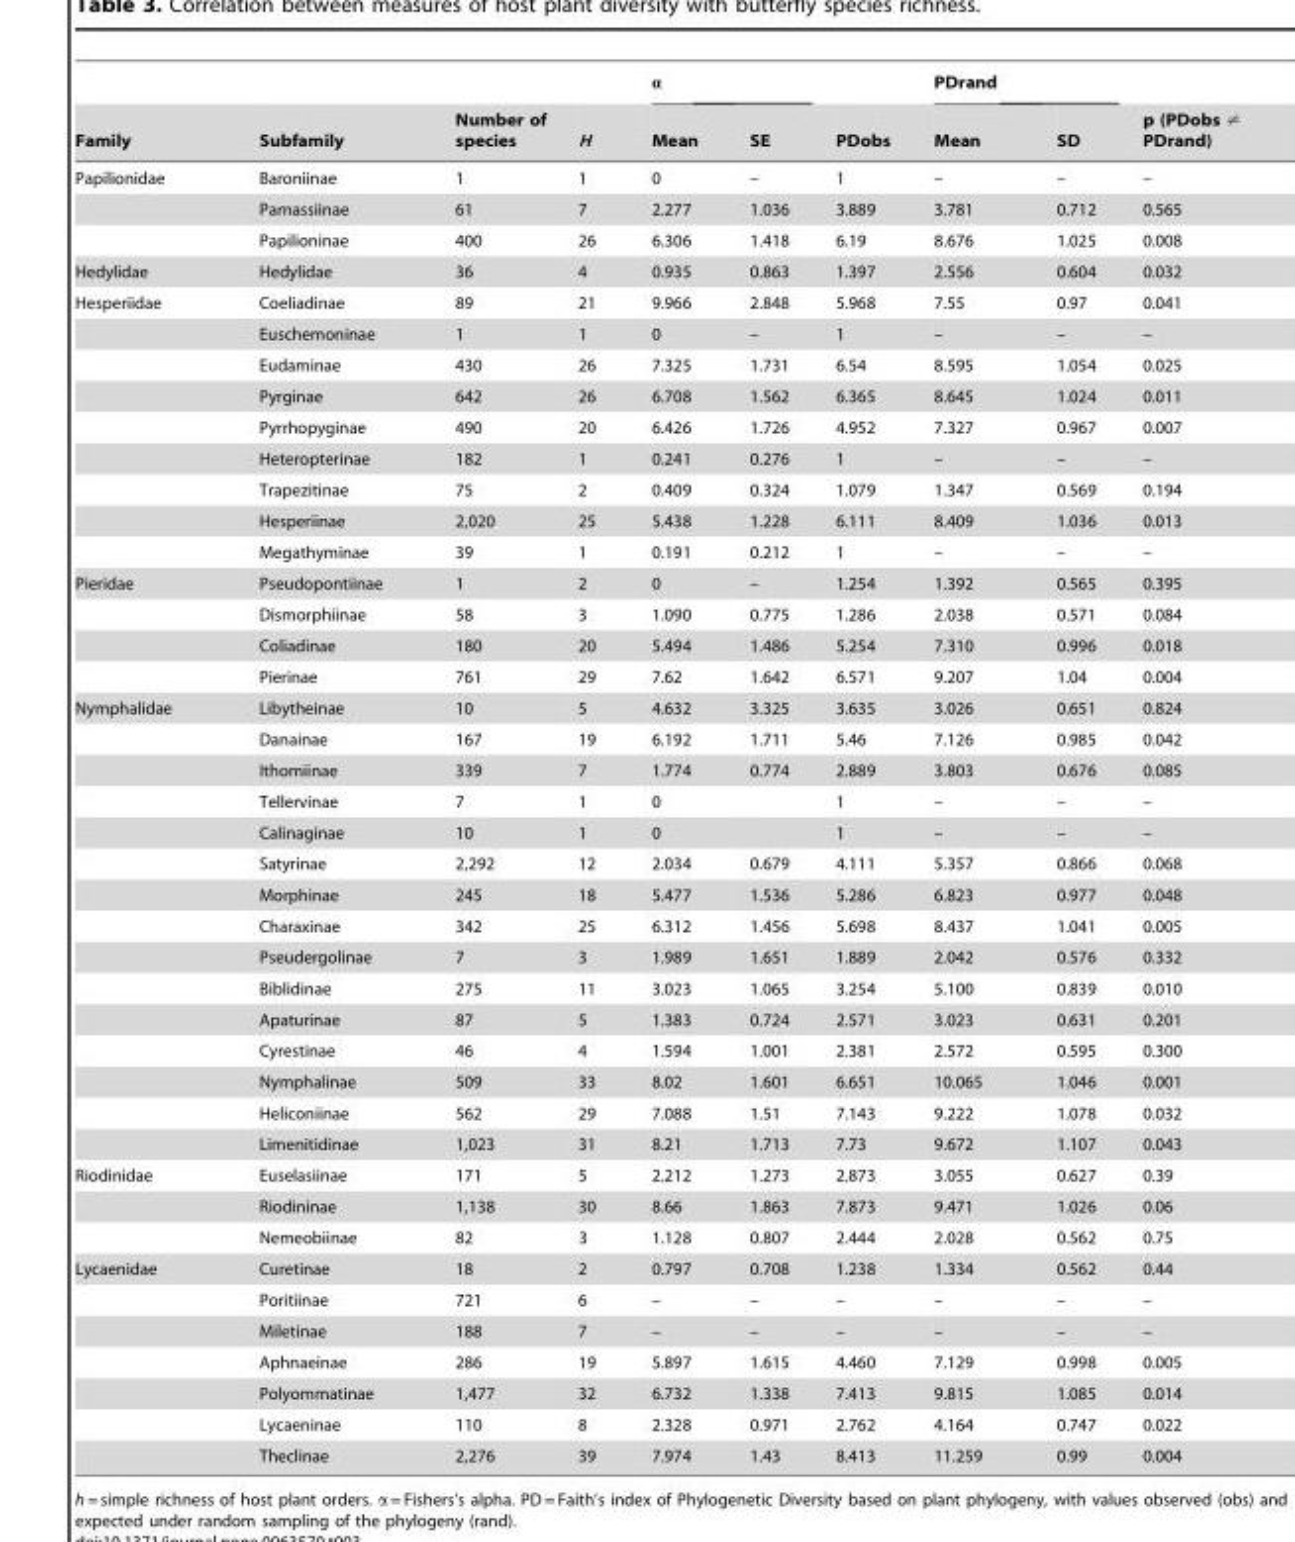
<table><thead><tr><td rowspan="2">Family</td><td rowspan="2">Subfamily</td><td rowspan="2">Number of species</td><td rowspan="2">H</td><td rowspan="2">α Mean</td><td rowspan="2">SE</td><td rowspan="2">PDobs</td><td rowspan="2">PDrand Mean</td><td rowspan="2">SD</td><td rowspan="2">p (PDobs PDrand)</td></tr><tr></tr></thead><tbody><tr><td rowspan="3">Papilionidae</td><td>Baroniinae</td><td>1</td><td>1</td><td>0</td><td>–</td><td>1</td><td>–</td><td>–</td><td>–</td></tr><tr><td>Parnassiinae</td><td>61</td><td>7</td><td>2.277</td><td>1.036</td><td>3.889</td><td>3.781</td><td>0.712</td><td>0.565</td></tr><tr><td>Papilioninae</td><td>400</td><td>26</td><td>6.306</td><td>1.418</td><td>6.19</td><td>8.676</td><td>1.025</td><td>0.008</td></tr><tr><td>Hedylidae</td><td>Hedylidae</td><td>36</td><td>4</td><td>0.935</td><td>0.863</td><td>1.397</td><td>2.556</td><td>0.604</td><td>0.032</td></tr><tr><td rowspan="9">Hesperiidae</td><td>Coeliadinae</td><td>89</td><td>21</td><td>9.966</td><td>2.848</td><td>5.968</td><td>7.55</td><td>0.97</td><td>0.041</td></tr><tr><td>Euschemoninae</td><td>1</td><td>1</td><td>0</td><td>–</td><td>1</td><td>–</td><td>–</td><td>–</td></tr><tr><td>Eudaminae</td><td>430</td><td>26</td><td>7.325</td><td>1.731</td><td>6.54</td><td>8.595</td><td>1.054</td><td>0.025</td></tr><tr><td>Pyrginae</td><td>642</td><td>26</td><td>6.708</td><td>1.562</td><td>6.365</td><td>8.645</td><td>1.024</td><td>0.011</td></tr><tr><td>Pyrrhopyginae</td><td>490</td><td>20</td><td>6.426</td><td>1.726</td><td>4.952</td><td>7.327</td><td>0.967</td><td>0.007</td></tr><tr><td>Heteropterinae</td><td>182</td><td>1</td><td>0.241</td><td>0.276</td><td>1</td><td>–</td><td>–</td><td>–</td></tr><tr><td>Trapezitinae</td><td>75</td><td>2</td><td>0.409</td><td>0.324</td><td>1.079</td><td>1.347</td><td>0.569</td><td>0.194</td></tr><tr><td>Hesperiinae</td><td>2,020</td><td>25</td><td>5.438</td><td>1.228</td><td>6.111</td><td>8.409</td><td>1.036</td><td>0.013</td></tr><tr><td>Megathyminae</td><td>39</td><td>1</td><td>0.191</td><td>0.212</td><td>1</td><td>–</td><td>–</td><td>–</td></tr><tr><td rowspan="4">Pieridae</td><td>Pseudopontiinae</td><td>1</td><td>2</td><td>0</td><td>–</td><td>1.254</td><td>1.392</td><td>0.565</td><td>0.395</td></tr><tr><td>Dismorphiinae</td><td>58</td><td>3</td><td>1.090</td><td>0.775</td><td>1.286</td><td>2.038</td><td>0.571</td><td>0.084</td></tr><tr><td>Coliadinae</td><td>180</td><td>20</td><td>5.494</td><td>1.486</td><td>5.254</td><td>7.310</td><td>0.996</td><td>0.018</td></tr><tr><td>Pierinae</td><td>761</td><td>29</td><td>7.62</td><td>1.642</td><td>6.571</td><td>9.207</td><td>1.04</td><td>0.004</td></tr><tr><td rowspan="15">Nymphalidae</td><td>Libytheinae</td><td>10</td><td>5</td><td>4.632</td><td>3.325</td><td>3.635</td><td>3.026</td><td>0.651</td><td>0.824</td></tr><tr><td>Danainae</td><td>167</td><td>19</td><td>6.192</td><td>1.711</td><td>5.46</td><td>7.126</td><td>0.985</td><td>0.042</td></tr><tr><td>Ithomiinae</td><td>339</td><td>7</td><td>1.774</td><td>0.774</td><td>2.889</td><td>3.803</td><td>0.676</td><td>0.085</td></tr><tr><td>Tellervinae</td><td>7</td><td>1</td><td>0</td><td></td><td>1</td><td>–</td><td>–</td><td>–</td></tr><tr><td>Calinaginae</td><td>10</td><td>1</td><td>0</td><td></td><td>1</td><td>–</td><td>–</td><td>–</td></tr><tr><td>Satyrinae</td><td>2,292</td><td>12</td><td>2.034</td><td>0.679</td><td>4.111</td><td>5.357</td><td>0.866</td><td>0.068</td></tr><tr><td>Morphinae</td><td>245</td><td>18</td><td>5.477</td><td>1.536</td><td>5.286</td><td>6.823</td><td>0.977</td><td>0.048</td></tr><tr><td>Charaxinae</td><td>342</td><td>25</td><td>6.312</td><td>1.456</td><td>5.698</td><td>8.437</td><td>1.041</td><td>0.005</td></tr><tr><td>Pseudergolinae</td><td>7</td><td>3</td><td>1.989</td><td>1.651</td><td>1.889</td><td>2.042</td><td>0.576</td><td>0.332</td></tr><tr><td>Biblidinae</td><td>275</td><td>11</td><td>3.023</td><td>1.065</td><td>3.254</td><td>5.100</td><td>0.839</td><td>0.010</td></tr><tr><td>Apaturinae</td><td>87</td><td>5</td><td>1.383</td><td>0.724</td><td>2.571</td><td>3.023</td><td>0.631</td><td>0.201</td></tr><tr><td>Cyrestinae</td><td>46</td><td>4</td><td>1.594</td><td>1.001</td><td>2.381</td><td>2.572</td><td>0.595</td><td>0.300</td></tr><tr><td>Nymphalinae</td><td>509</td><td>33</td><td>8.02</td><td>1.601</td><td>6.651</td><td>10.065</td><td>1.046</td><td>0.001</td></tr><tr><td>Heliconiinae</td><td>562</td><td>29</td><td>7.088</td><td>1.51</td><td>7.143</td><td>9.222</td><td>1.078</td><td>0.032</td></tr><tr><td>Limenitidinae</td><td>1,023</td><td>31</td><td>8.21</td><td>1.713</td><td>7.73</td><td>9.672</td><td>1.107</td><td>0.043</td></tr><tr><td rowspan="3">Riodinidae</td><td>Euselasiinae</td><td>171</td><td>5</td><td>2.212</td><td>1.273</td><td>2.873</td><td>3.055</td><td>0.627</td><td>0.39</td></tr><tr><td>Riodininae</td><td>1,138</td><td>30</td><td>8.66</td><td>1.863</td><td>7.873</td><td>9.471</td><td>1.026</td><td>0.06</td></tr><tr><td>Nemeobiinae</td><td>82</td><td>3</td><td>1.128</td><td>0.807</td><td>2.444</td><td>2.028</td><td>0.562</td><td>0.75</td></tr><tr><td rowspan="7">Lycaenidae</td><td>Curetinae</td><td>18</td><td>2</td><td>0.797</td><td>0.708</td><td>1.238</td><td>1.334</td><td>0.562</td><td>0.44</td></tr><tr><td>Poritiinae</td><td>721</td><td>6</td><td>–</td><td>–</td><td>–</td><td>–</td><td>–</td><td>–</td></tr><tr><td>Miletinae</td><td>188</td><td>7</td><td>–</td><td>–</td><td>–</td><td>–</td><td>–</td><td>–</td></tr><tr><td>Aphnaeinae</td><td>286</td><td>19</td><td>5.897</td><td>1.615</td><td>4.460</td><td>7.129</td><td>0.998</td><td>0.005</td></tr><tr><td>Polyommatinae</td><td>1,477</td><td>32</td><td>6.732</td><td>1.338</td><td>7.413</td><td>9.815</td><td>1.085</td><td>0.014</td></tr><tr><td>Lycaeninae</td><td>110</td><td>8</td><td>2.328</td><td>0.971</td><td>2.762</td><td>4.164</td><td>0.747</td><td>0.022</td></tr><tr><td>Theclinae</td><td>2,276</td><td>39</td><td>7.974</td><td>1.43</td><td>8.413</td><td>11.259</td><td>0.99</td><td>0.004</td></tr></tbody></table>